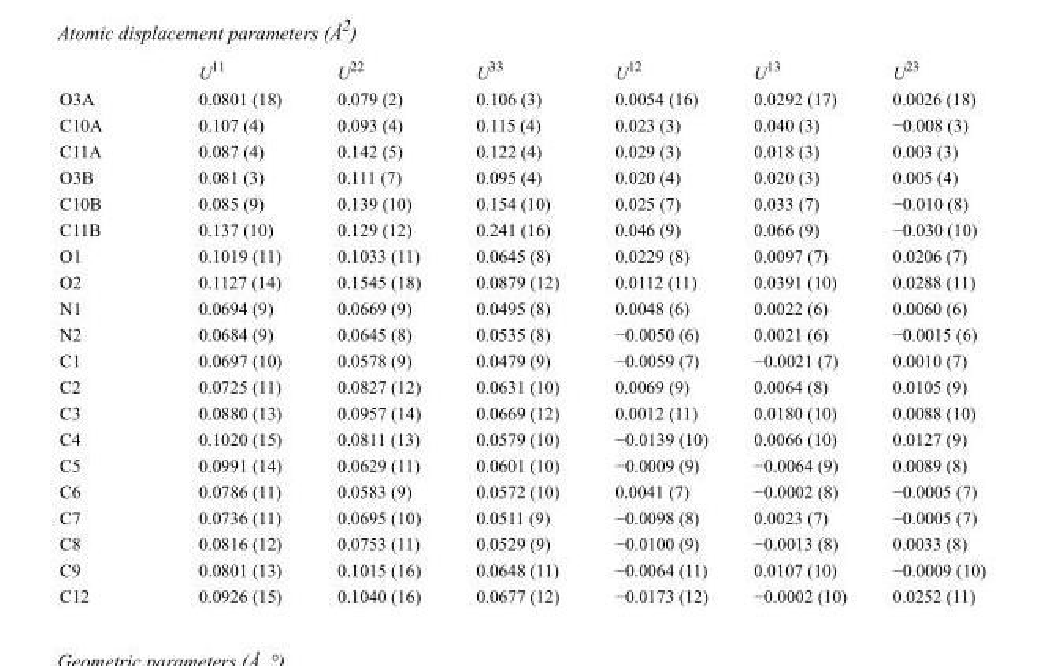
<table><thead><tr><td></td><td>U<sup>11</sup></td><td>U<sup>22</sup></td><td>U<sup>33</sup></td><td>U<sup>12</sup></td><td>U<sup>13</sup></td><td>U<sup>23</sup></td></tr></thead><tbody><tr><td>O3A</td><td>0.0801 (18)</td><td>0.079 (2)</td><td>0.106 (3)</td><td>0.0054 (16)</td><td>0.0292 (17)</td><td>0.0026 (18)</td></tr><tr><td>C10A</td><td>0.107 (4)</td><td>0.093 (4)</td><td>0.115 (4)</td><td>0.023 (3)</td><td>0.040 (3)</td><td>−0.008 (3)</td></tr><tr><td>C11A</td><td>0.087 (4)</td><td>0.142 (5)</td><td>0.122 (4)</td><td>0.029 (3)</td><td>0.018 (3)</td><td>0.003 (3)</td></tr><tr><td>O3B</td><td>0.081 (3)</td><td>0.111 (7)</td><td>0.095 (4)</td><td>0.020 (4)</td><td>0.020 (3)</td><td>0.005 (4)</td></tr><tr><td>C10B</td><td>0.085 (9)</td><td>0.139 (10)</td><td>0.154 (10)</td><td>0.025 (7)</td><td>0.033 (7)</td><td>−0.010 (8)</td></tr><tr><td>C11B</td><td>0.137 (10)</td><td>0.129 (12)</td><td>0.241 (16)</td><td>0.046 (9)</td><td>0.066 (9)</td><td>−0.030 (10)</td></tr><tr><td>O1</td><td>0.1019 (11)</td><td>0.1033 (11)</td><td>0.0645 (8)</td><td>0.0229 (8)</td><td>0.0097 (7)</td><td>0.0206 (7)</td></tr><tr><td>O2</td><td>0.1127 (14)</td><td>0.1545 (18)</td><td>0.0879 (12)</td><td>0.0112 (11)</td><td>0.0391 (10)</td><td>0.0288 (11)</td></tr><tr><td>N1</td><td>0.0694 (9)</td><td>0.0669 (9)</td><td>0.0495 (8)</td><td>0.0048 (6)</td><td>0.0022 (6)</td><td>0.0060 (6)</td></tr><tr><td>N2</td><td>0.0684 (9)</td><td>0.0645 (8)</td><td>0.0535 (8)</td><td>−0.0050 (6)</td><td>0.0021 (6)</td><td>−0.0015 (6)</td></tr><tr><td>C1</td><td>0.0697 (10)</td><td>0.0578 (9)</td><td>0.0479 (9)</td><td>−0.0059 (7)</td><td>−0.0021 (7)</td><td>0.0010 (7)</td></tr><tr><td>C2</td><td>0.0725 (11)</td><td>0.0827 (12)</td><td>0.0631 (10)</td><td>0.0069 (9)</td><td>0.0064 (8)</td><td>0.0105 (9)</td></tr><tr><td>C3</td><td>0.0880 (13)</td><td>0.0957 (14)</td><td>0.0669 (12)</td><td>0.0012 (11)</td><td>0.0180 (10)</td><td>0.0088 (10)</td></tr><tr><td>C4</td><td>0.1020 (15)</td><td>0.0811 (13)</td><td>0.0579 (10)</td><td>−0.0139 (10)</td><td>0.0066 (10)</td><td>0.0127 (9)</td></tr><tr><td>C5</td><td>0.0991 (14)</td><td>0.0629 (11)</td><td>0.0601 (10)</td><td>−0.0009 (9)</td><td>−0.0064 (9)</td><td>0.0089 (8)</td></tr><tr><td>C6</td><td>0.0786 (11)</td><td>0.0583 (9)</td><td>0.0572 (10)</td><td>0.0041 (7)</td><td>−0.0002 (8)</td><td>−0.0005 (7)</td></tr><tr><td>C7</td><td>0.0736 (11)</td><td>0.0695 (10)</td><td>0.0511 (9)</td><td>−0.0098 (8)</td><td>0.0023 (7)</td><td>−0.0005 (7)</td></tr><tr><td>C8</td><td>0.0816 (12)</td><td>0.0753 (11)</td><td>0.0529 (9)</td><td>−0.0100 (9)</td><td>−0.0013 (8)</td><td>0.0033 (8)</td></tr><tr><td>C9</td><td>0.0801 (13)</td><td>0.1015 (16)</td><td>0.0648 (11)</td><td>−0.0064 (11)</td><td>0.0107 (10)</td><td>−0.0009 (10)</td></tr><tr><td>C12</td><td>0.0926 (15)</td><td>0.1040 (16)</td><td>0.0677 (12)</td><td>−0.0173 (12)</td><td>−0.0002 (10)</td><td>0.0252 (11)</td></tr></tbody></table>